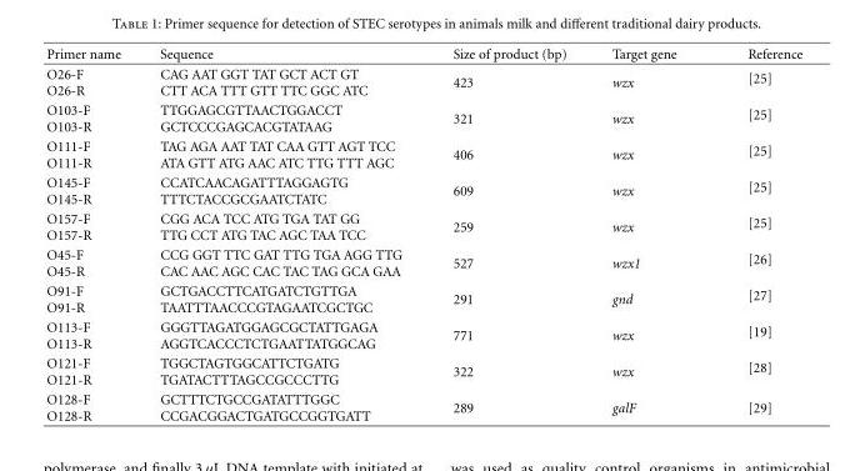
<table><thead><tr><td>Primer name</td><td>Sequence</td><td>Size of product (bp)</td><td>Target gene</td><td>Reference</td></tr></thead><tbody><tr><td>O26-F O26-R</td><td>CAG AAT GGT TAT GCT ACT GT CTT ACA TTT GTT TTC GGC ATC</td><td>423</td><td>wzx</td><td>[25]</td></tr><tr><td>O103-F O103-R</td><td>TTGGAGCGTTAACTGGACCT GCTCCCGAGCACGTATAAG</td><td>321</td><td>wzx</td><td>[25]</td></tr><tr><td>O111-F O111-R</td><td>TAG AGA AAT TAT CAA GTT AGT TCC ATA GTT ATG AAC ATC TTG TTT AGC</td><td>406</td><td>wzx</td><td>[25]</td></tr><tr><td>O145-F O145-R</td><td>CCATCAACAGATTTAGGAGTG TTTCTACCGCGAATCTATC</td><td>609</td><td>wzx</td><td>[25]</td></tr><tr><td>O157-F O157-R</td><td>CGG ACA TCC ATG TGA TAT GG TTG CCT ATG TAC AGC TAA TCC</td><td>259</td><td>wzx</td><td>[25]</td></tr><tr><td>O45-F O45-R</td><td>CCG GGT TTC GAT TTG TGA AGG TTG CAC AAC AGC CAC TAC TAG GCA GAA</td><td>527</td><td>wzx1</td><td>[26]</td></tr><tr><td>O91-F O91-R</td><td>GCTGACCTTCATGATCTGTTGA TAATTTAACCCGTAGAATCGCTGC</td><td>291</td><td>gnd</td><td>[27]</td></tr><tr><td>O113-F O113-R</td><td>GGGTTAGATGGAGCGCTATTGAGA AGGTCACCCTCTGAATTATGGCAG</td><td>771</td><td>wzx</td><td>[19]</td></tr><tr><td>O121-F O121-R</td><td>TGGCTAGTGGCATTCTGATG TGATACTTTAGCCGCCCTTG</td><td>322</td><td>wzx</td><td>[28]</td></tr><tr><td>O128-F O128-R</td><td>GCTTTCTGCCGATATTTGGC CCGACGGACTGATGCCGGTGATT</td><td>289</td><td>galF</td><td>[29]</td></tr></tbody></table>